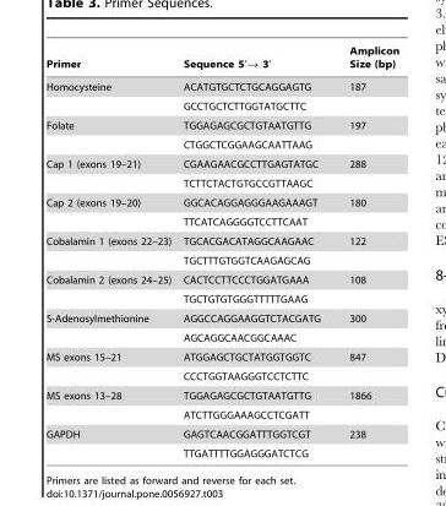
<table><thead><tr><td>Primer</td><td>Sequence 5′→ 3′</td><td>Amplicon Size (bp)</td></tr></thead><tbody><tr><td rowspan="2">Homocysteine</td><td>ACATGTGCTCTGCAGGAGTG</td><td>187</td></tr><tr><td>GCCTGCTCTTGGTATGCTTC</td><td></td></tr><tr><td rowspan="2">Folate</td><td>TGGAGAGCGCTGTAATGTTG</td><td>197</td></tr><tr><td>CTGGCTCGGAAGCAATTAAG</td><td></td></tr><tr><td rowspan="2">Cap 1 (exons 19–21)</td><td>CGAAGAACGCCTTGAGTATGC</td><td>288</td></tr><tr><td>TCTTCTACTGTGCCGTTAAGC</td><td></td></tr><tr><td rowspan="2">Cap 2 (exons 19–20)</td><td>GGCACAGGAGGGAAGAAAGT</td><td>180</td></tr><tr><td>TTCATCAGGGGTCCTTCAAT</td><td></td></tr><tr><td rowspan="2">Cobalamin 1 (exons 22–23)</td><td>TGCACGACATAGGCAAGAAC</td><td>122</td></tr><tr><td>TGCTTTGTGGTCAAGAGCAG</td><td></td></tr><tr><td rowspan="2">Cobalamin 2 (exons 24–25)</td><td>CACTCCTTCCCTGGATGAAA</td><td>108</td></tr><tr><td>TGCTGTGTGGGTTTTTGAAG</td><td></td></tr><tr><td rowspan="2">S-Adenosylmethionine</td><td>AGGCCAGGAAGGTCTACGATG</td><td>300</td></tr><tr><td>AGCAGGCAACGGCAAAC</td><td></td></tr><tr><td rowspan="2">MS exons 15–21</td><td>ATGGAGCTGCTATGGTGGTC</td><td>847</td></tr><tr><td>CCCTGGTAAGGGTCCTCTTC</td><td></td></tr><tr><td rowspan="2">MS exons 13–28</td><td>TGGAGAGCGCTGTAATGTTG</td><td>1866</td></tr><tr><td>ATCTTGGGAAAGCCTCGATT</td><td></td></tr><tr><td rowspan="2">GAPDH</td><td>GAGTCAACGGATTTGGTCGT</td><td>238</td></tr><tr><td>TTGATTTTGGAGGGATCTCG</td><td></td></tr></tbody></table>